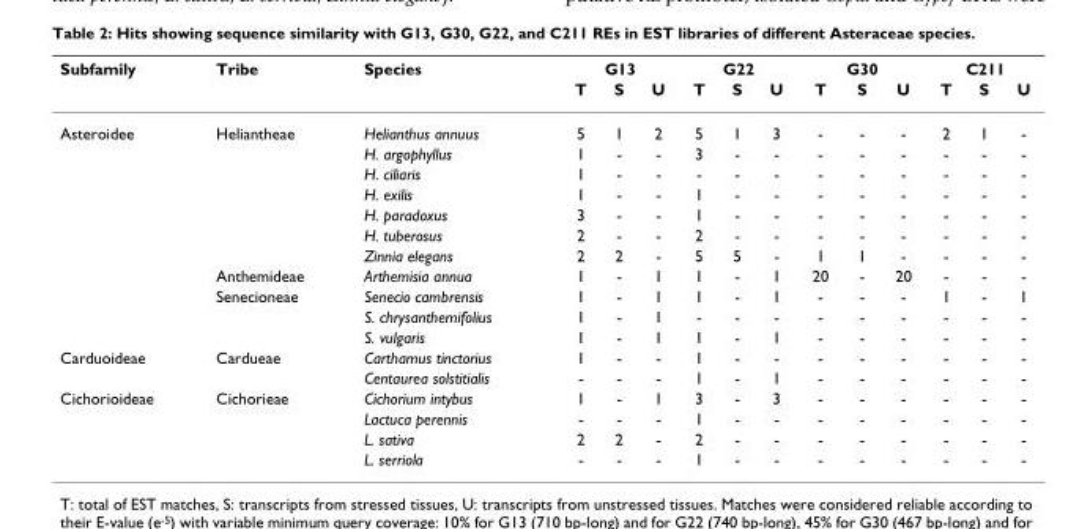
<table><thead><tr><td rowspan="2">Subfamily</td><td rowspan="2">Tribe</td><td rowspan="2">Species</td><td colspan="3">G13</td><td colspan="3">G22</td><td colspan="3">G30</td><td colspan="3">C211</td></tr><tr><td>T</td><td>S</td><td>U</td><td>T</td><td>S</td><td>U</td><td>T</td><td>S</td><td>U</td><td>T</td><td>S</td><td>U</td></tr></thead><tbody><tr><td rowspan="11">Asteroidee</td><td>Heliantheae</td><td>Helianthus annuus</td><td>5</td><td>1</td><td>2</td><td>5</td><td>1</td><td>3</td><td>-</td><td>-</td><td>-</td><td>2</td><td>1</td><td>-</td></tr><tr><td></td><td>H. argophyllus</td><td>1</td><td>-</td><td>-</td><td>3</td><td>-</td><td>-</td><td>-</td><td>-</td><td>-</td><td>-</td><td>-</td><td>-</td></tr><tr><td></td><td>H. ciliaris</td><td>1</td><td>-</td><td>-</td><td>-</td><td>-</td><td>-</td><td>-</td><td>-</td><td>-</td><td>-</td><td>-</td><td>-</td></tr><tr><td></td><td>H. exilis</td><td>1</td><td>-</td><td>-</td><td>1</td><td>-</td><td>-</td><td>-</td><td>-</td><td>-</td><td>-</td><td>-</td><td>-</td></tr><tr><td></td><td>H. paradoxus</td><td>3</td><td>-</td><td>-</td><td>1</td><td>-</td><td>-</td><td>-</td><td>-</td><td>-</td><td>-</td><td>-</td><td>-</td></tr><tr><td></td><td>H. tuberosus</td><td>2</td><td>-</td><td>-</td><td>2</td><td>-</td><td>-</td><td>-</td><td>-</td><td>-</td><td>-</td><td>-</td><td>-</td></tr><tr><td></td><td>Zinnia elegans</td><td>2</td><td>2</td><td>-</td><td>5</td><td>5</td><td>-</td><td>1</td><td>1</td><td>-</td><td>-</td><td>-</td><td>-</td></tr><tr><td>Anthemideae</td><td>Arthemisia annua</td><td>1</td><td>-</td><td>1</td><td>1</td><td>-</td><td>1</td><td>20</td><td>-</td><td>20</td><td>-</td><td>-</td><td>-</td></tr><tr><td>Senecioneae</td><td>Senecio cambrensis</td><td>1</td><td>-</td><td>1</td><td>1</td><td>-</td><td>1</td><td>-</td><td>-</td><td>-</td><td>1</td><td>-</td><td>1</td></tr><tr><td></td><td>S. chrysanthemifolius</td><td>1</td><td>-</td><td>1</td><td>-</td><td>-</td><td>-</td><td>-</td><td>-</td><td>-</td><td>-</td><td>-</td><td>-</td></tr><tr><td></td><td>S. vulgaris</td><td>1</td><td>-</td><td>1</td><td>1</td><td>-</td><td>1</td><td>-</td><td>-</td><td>-</td><td>-</td><td>-</td><td>-</td></tr><tr><td rowspan="2">Carduoideae</td><td>Cardueae</td><td>Carthamus tinctorius</td><td>1</td><td>-</td><td>-</td><td>1</td><td>-</td><td>-</td><td>-</td><td>-</td><td>-</td><td>-</td><td>-</td><td>-</td></tr><tr><td></td><td>Centaurea solstitialis</td><td>-</td><td>-</td><td>-</td><td>1</td><td>-</td><td>1</td><td>-</td><td>-</td><td>-</td><td>-</td><td>-</td><td>-</td></tr><tr><td rowspan="4">Cichorioideae</td><td>Cichorieae</td><td>Cichorium intybus</td><td>1</td><td>-</td><td>1</td><td>3</td><td>-</td><td>3</td><td>-</td><td>-</td><td>-</td><td>-</td><td>-</td><td>-</td></tr><tr><td></td><td>Lactuca perennis</td><td>-</td><td>-</td><td>-</td><td>1</td><td>-</td><td>-</td><td>-</td><td>-</td><td>-</td><td>-</td><td>-</td><td>-</td></tr><tr><td></td><td>L. sativa</td><td>2</td><td>2</td><td>-</td><td>2</td><td>-</td><td>-</td><td>-</td><td>-</td><td>-</td><td>-</td><td>-</td><td>-</td></tr><tr><td></td><td>L. serriola</td><td>-</td><td>-</td><td>-</td><td>1</td><td>-</td><td>-</td><td>-</td><td>-</td><td>-</td><td>-</td><td>-</td><td>-</td></tr></tbody></table>